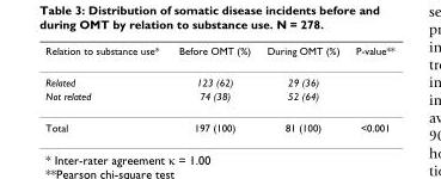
<table><thead><tr><td>Relation to substance use*</td><td>Before OMT (%)</td><td>During OMT (%)</td><td>P-value**</td></tr></thead><tbody><tr><td>Related</td><td>123 (62)</td><td>29 (36)</td><td></td></tr><tr><td>Not related</td><td>74 (38)</td><td>52 (64)</td><td></td></tr><tr><td>Total</td><td>197 (100)</td><td>81 (100)</td><td>&lt;0.001</td></tr></tbody></table>